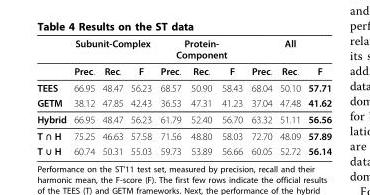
<table><thead><tr><td rowspan="2"></td><td colspan="3">Subunit-Complex</td><td colspan="3">Protein- Component</td><td rowspan="2">Prec.</td><td rowspan="2">All Rec.</td><td rowspan="2">F</td></tr><tr><td>Prec.</td><td>Rec.</td><td>F</td><td>Prec.</td><td>Rec.</td><td>F</td></tr></thead><tbody><tr><td>TEES</td><td>66.95</td><td>48.47</td><td>56.23</td><td>68.57</td><td>50.90</td><td>58.43</td><td>68.04</td><td>50.10</td><td>57.71</td></tr><tr><td>GETM</td><td>38.12</td><td>47.85</td><td>42.43</td><td>36.53</td><td>47.31</td><td>41.23</td><td>37.04</td><td>47.48</td><td>41.62</td></tr><tr><td>Hybrid</td><td>66.95</td><td>48.47</td><td>56.23</td><td>61.79</td><td>52.40</td><td>56.70</td><td>63.32</td><td>51.11</td><td>56.56</td></tr><tr><td>T ∩ H</td><td>75.25</td><td>46.63</td><td>57.58</td><td>71.56</td><td>48.80</td><td>58.03</td><td>72.70</td><td>48.09</td><td>57.89</td></tr><tr><td>T ∪ H</td><td>60.74</td><td>50.31</td><td>55.03</td><td>59.73</td><td>53.89</td><td>56.66</td><td>60.05</td><td>52.72</td><td>56.14</td></tr></tbody></table>